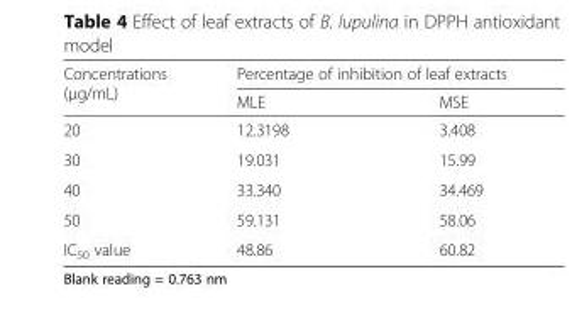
<table><thead><tr><td rowspan="2">Concentrations (μg/mL)</td><td colspan="2">Percentage of inhibition of leaf extracts</td></tr><tr><td>MLE</td><td>MSE</td></tr></thead><tbody><tr><td>20</td><td>12.3198</td><td>3.408</td></tr><tr><td>30</td><td>19.031</td><td>15.99</td></tr><tr><td>40</td><td>33.340</td><td>34.469</td></tr><tr><td>50</td><td>59.131</td><td>58.06</td></tr><tr><td>IC<sub>50</sub> value</td><td>48.86</td><td>60.82</td></tr></tbody></table>